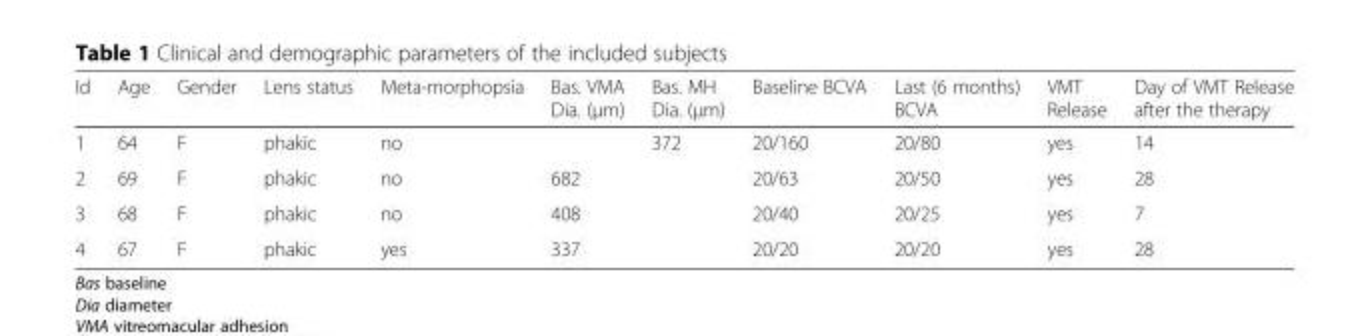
<table><thead><tr><td>Id</td><td>Age</td><td>Gender</td><td>Lens status</td><td>Meta-morphopsia</td><td>Bas. VMA Dia. (μm)</td><td>Bas. MH Dia. (μm)</td><td>Baseline BCVA</td><td>Last (6 months) BCVA</td><td>VMT Release</td><td>Day of VMT Release after the therapy</td></tr></thead><tbody><tr><td>1</td><td>64</td><td>F</td><td>phakic</td><td>no</td><td></td><td>372</td><td>20/160</td><td>20/80</td><td>yes</td><td>14</td></tr><tr><td>2</td><td>69</td><td>F</td><td>phakic</td><td>no</td><td>682</td><td></td><td>20/63</td><td>20/50</td><td>yes</td><td>28</td></tr><tr><td>3</td><td>68</td><td>F</td><td>phakic</td><td>no</td><td>408</td><td></td><td>20/40</td><td>20/25</td><td>yes</td><td>7</td></tr><tr><td>4</td><td>67</td><td>F</td><td>phakic</td><td>yes</td><td>337</td><td></td><td>20/20</td><td>20/20</td><td>yes</td><td>28</td></tr></tbody></table>